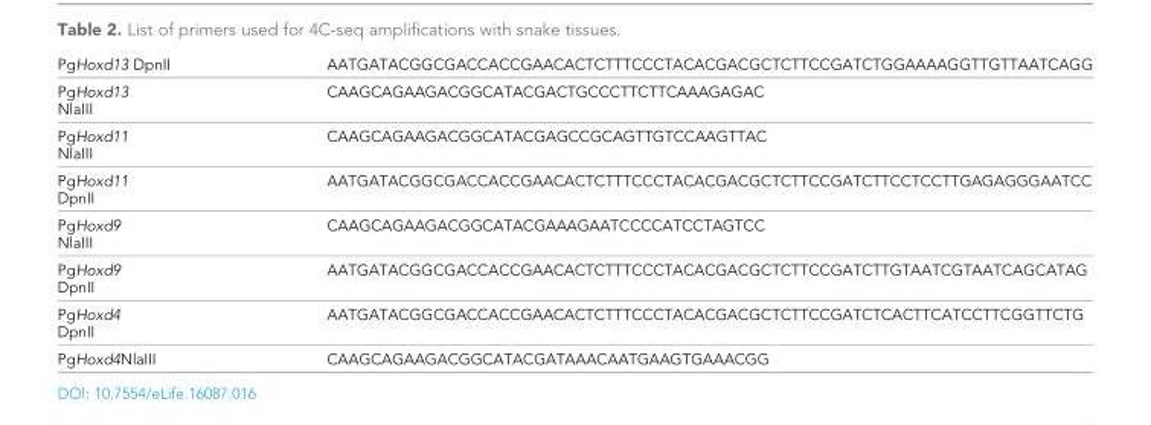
<table><tbody><tr><td>PgHoxd13 DpnII</td><td>AATGATACGGCGACCACCGAACACTCTTTCCCTACACGACGCTCTTCCGATCTGGAAAAGGTTGTTAATCAGG</td></tr><tr><td>PgHoxd13 NlaIII</td><td>CAAGCAGAAGACGGCATACGACTGCCCTTCTTCAAAGAGAC</td></tr><tr><td>PgHoxd11 NlaIII</td><td>CAAGCAGAAGACGGCATACGAGCCGCAGTTGTCCAAGTTAC</td></tr><tr><td>PgHoxd11 DpnII</td><td>AATGATACGGCGACCACCGAACACTCTTTCCCTACACGACGCTCTTCCGATCTTCCTCCTTGAGAGGGAATCC</td></tr><tr><td>PgHoxd9 NlaIII</td><td>CAAGCAGAAGACGGCATACGAAAGAATCCCCATCCTAGTCC</td></tr><tr><td>PgHoxd9 DpnII</td><td>AATGATACGGCGACCACCGAACACTCTTTCCCTACACGACGCTCTTCCGATCTTGTAATCGTAATCAGCATAG</td></tr><tr><td>PgHoxd4 DpnII</td><td>AATGATACGGCGACCACCGAACACTCTTTCCCTACACGACGCTCTTCCGATCTCACTTCATCCTTCGGTTCTG</td></tr><tr><td>PgHoxd4NlaIII</td><td>CAAGCAGAAGACGGCATACGATAAACAATGAAGTGAAACGG</td></tr></tbody></table>